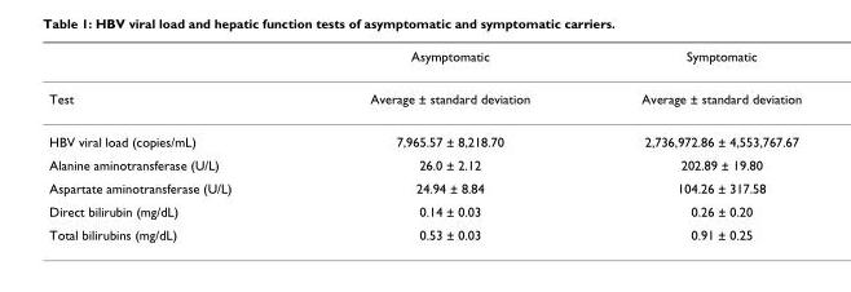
<table><thead><tr><td></td><td>Asymptomatic</td><td>Symptomatic</td></tr></thead><tbody><tr><td>Test</td><td>Average ± standard deviation</td><td>Average ± standard deviation</td></tr><tr><td>HBV viral load (copies/mL)</td><td>7,965.57 ± 8,218.70</td><td>2,736,972.86 ± 4,553,767.67</td></tr><tr><td>Alanine aminotransferase (U/L)</td><td>26.0 ± 2.12</td><td>202.89 ± 19.80</td></tr><tr><td>Aspartate aminotransferase (U/L)</td><td>24.94 ± 8.84</td><td>104.26 ± 317.58</td></tr><tr><td>Direct bilirubin (mg/dL)</td><td>0.14 ± 0.03</td><td>0.26 ± 0.20</td></tr><tr><td>Total bilirubins (mg/dL)</td><td>0.53 ± 0.03</td><td>0.91 ± 0.25</td></tr></tbody></table>